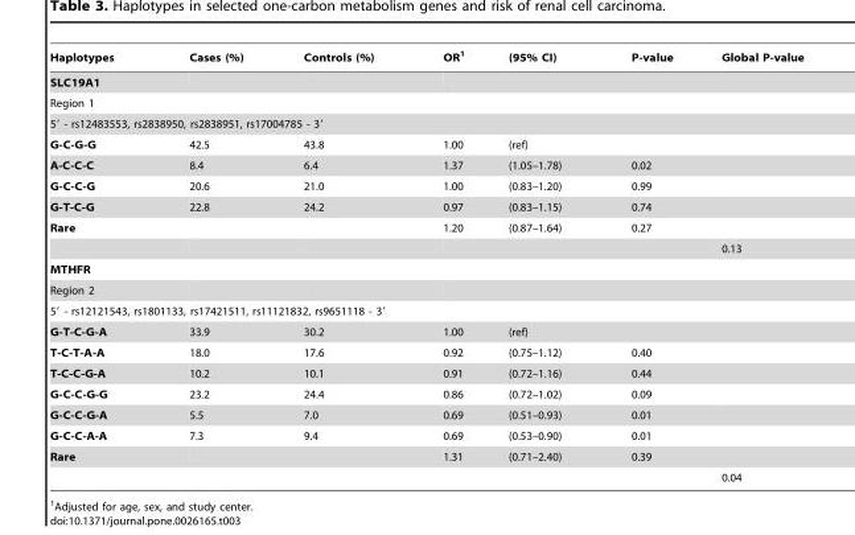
<table><thead><tr><td>Haplotypes</td><td>Cases (%)</td><td>Controls (%)</td><td>OR<sup>1</sup></td><td>(95% CI)</td><td>P-value</td><td>Global P-value</td></tr></thead><tbody><tr><td colspan="7">SLC19A1</td></tr><tr><td colspan="7">Region 1</td></tr><tr><td colspan="7">5′ - rs12483553, rs2838950, rs2838951, rs17004785 - 3′</td></tr><tr><td>G-C-G-G</td><td>42.5</td><td>43.8</td><td>1.00</td><td>(ref)</td><td></td><td></td></tr><tr><td>A-C-C-C</td><td>8.4</td><td>6.4</td><td>1.37</td><td>(1.05–1.78)</td><td>0.02</td><td></td></tr><tr><td>G-C-C-G</td><td>20.6</td><td>21.0</td><td>1.00</td><td>(0.83–1.20)</td><td>0.99</td><td></td></tr><tr><td>G-T-C-G</td><td>22.8</td><td>24.2</td><td>0.97</td><td>(0.83–1.15)</td><td>0.74</td><td></td></tr><tr><td rowspan="2">Rare</td><td></td><td></td><td>1.20</td><td>(0.87–1.64)</td><td>0.27</td><td></td></tr><tr><td></td><td></td><td></td><td></td><td></td><td>0.13</td></tr><tr><td colspan="7">MTHFR</td></tr><tr><td colspan="7">Region 2</td></tr><tr><td colspan="7">5′ - rs12121543, rs1801133, rs17421511, rs11121832, rs9651118 - 3′</td></tr><tr><td>G-T-C-G-A</td><td>33.9</td><td>30.2</td><td>1.00</td><td>(ref)</td><td></td><td></td></tr><tr><td>T-C-T-A-A</td><td>18.0</td><td>17.6</td><td>0.92</td><td>(0.75–1.12)</td><td>0.40</td><td></td></tr><tr><td>T-C-C-G-A</td><td>10.2</td><td>10.1</td><td>0.91</td><td>(0.72–1.16)</td><td>0.44</td><td></td></tr><tr><td>G-C-C-G-G</td><td>23.2</td><td>24.4</td><td>0.86</td><td>(0.72–1.02)</td><td>0.09</td><td></td></tr><tr><td>G-C-C-G-A</td><td>5.5</td><td>7.0</td><td>0.69</td><td>(0.51–0.93)</td><td>0.01</td><td></td></tr><tr><td>G-C-C-A-A</td><td>7.3</td><td>9.4</td><td>0.69</td><td>(0.53–0.90)</td><td>0.01</td><td></td></tr><tr><td rowspan="2">Rare</td><td></td><td></td><td>1.31</td><td>(0.71–2.40)</td><td>0.39</td><td></td></tr><tr><td></td><td></td><td></td><td></td><td></td><td>0.04</td></tr></tbody></table>